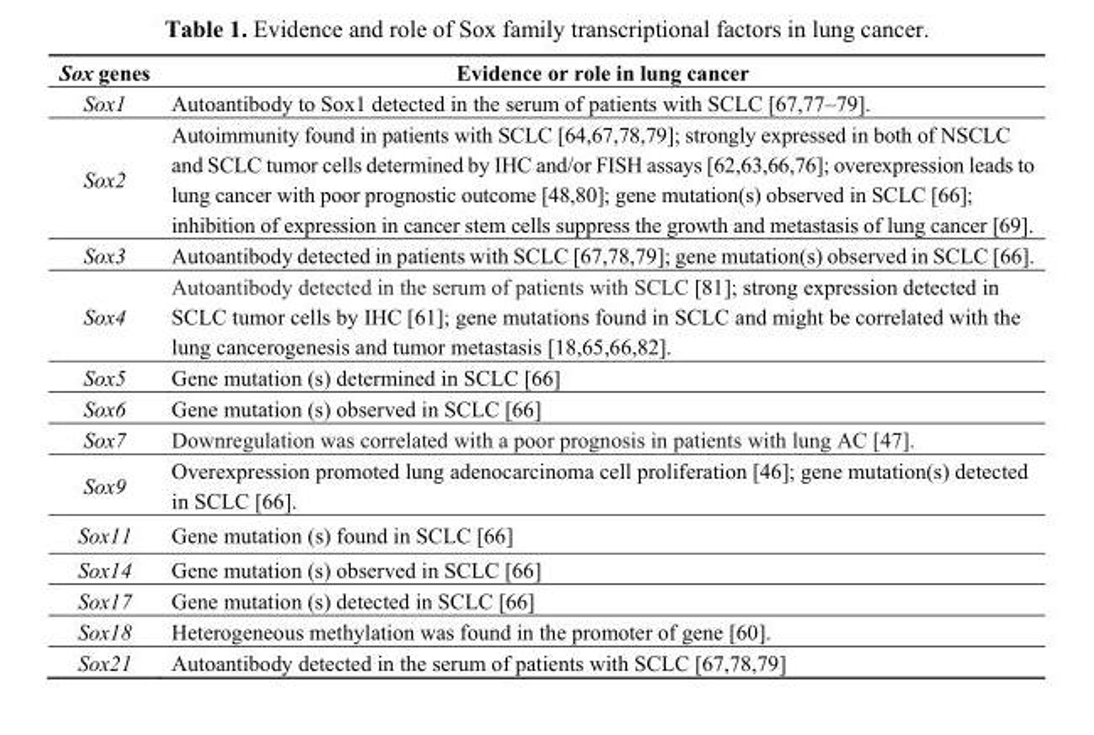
<table><thead><tr><td>Sox genes</td><td>Evidence or role in lung cancer</td></tr></thead><tbody><tr><td>Sox1</td><td>Autoantibody to Sox1 detected in the serum of patients with SCLC [67,77–79].</td></tr><tr><td>Sox2</td><td>Autoimmunity found in patients with SCLC [64,67,78,79]; strongly expressed in both of NSCLC and SCLC tumor cells determined by IHC and/or FISH assays [62,63,66,76]; overexpression leads to lung cancer with poor prognostic outcome [48,80]; gene mutation(s) observed in SCLC [66]; inhibition of expression in cancer stem cells suppress the growth and metastasis of lung cancer [69].</td></tr><tr><td>Sox3</td><td>Autoantibody detected in patients with SCLC [67,78,79]; gene mutation(s) observed in SCLC [66].</td></tr><tr><td>Sox4</td><td>Autoantibody detected in the serum of patients with SCLC [81]; strong expression detected in SCLC tumor cells by IHC [61]; gene mutations found in SCLC and might be correlated with the lung cancerogenesis and tumor metastasis [18,65,66,82].</td></tr><tr><td>Sox5</td><td>Gene mutation (s) determined in SCLC [66]</td></tr><tr><td>Sox6</td><td>Gene mutation (s) observed in SCLC [66]</td></tr><tr><td>Sox7</td><td>Downregulation was correlated with a poor prognosis in patients with lung AC [47].</td></tr><tr><td>Sox9</td><td>Overexpression promoted lung adenocarcinoma cell proliferation [46]; gene mutation(s) detected in SCLC [66].</td></tr><tr><td>Sox11</td><td>Gene mutation (s) found in SCLC [66]</td></tr><tr><td>Sox14</td><td>Gene mutation (s) observed in SCLC [66]</td></tr><tr><td>Sox17</td><td>Gene mutation (s) detected in SCLC [66]</td></tr><tr><td>Sox18</td><td>Heterogeneous methylation was found in the promoter of gene [60].</td></tr><tr><td>Sox21</td><td>Autoantibody detected in the serum of patients with SCLC [67,78,79]</td></tr></tbody></table>